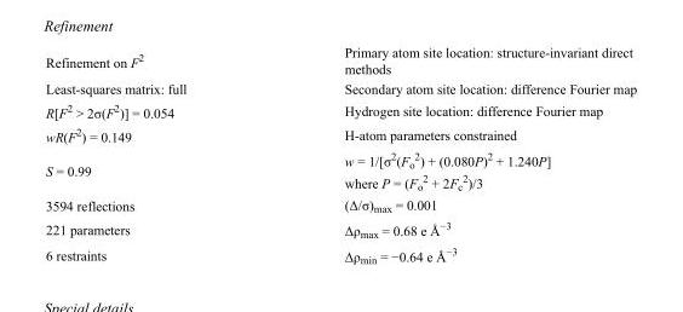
<table><tbody><tr><td>Refinement on F<sup>2</sup></td><td>Primary atom site location: structure-invariant direct methods</td></tr><tr><td>Least-squares matrix: full</td><td>Secondary atom site location: difference Fourier map</td></tr><tr><td>R[F<sup>2</sup> &gt; 2σ(F<sup>2</sup>)] = 0.054</td><td>Hydrogen site location: difference Fourier map</td></tr><tr><td>wR(F<sup>2</sup>) = 0.149</td><td>H-atom parameters constrained</td></tr><tr><td>S = 0.99</td><td>w = 1/[σ<sup>2</sup>(F<sub>o</sub> <sup>2</sup>) + (0.080P)<sup>2</sup> + 1.240P] where P = (F<sub>o</sub> <sup>2</sup> + 2F<sub>c</sub> <sup>2</sup>)/3</td></tr><tr><td>3594 reflections</td><td>(Δ/σ)<sub>max</sub> = 0.001</td></tr><tr><td>221 parameters</td><td>Δρ<sub>max</sub> = 0.68 e Å<sup>−3</sup></td></tr><tr><td>6 restraints</td><td>Δρ<sub>min</sub> = −0.64 e Å<sup>−3</sup></td></tr></tbody></table>